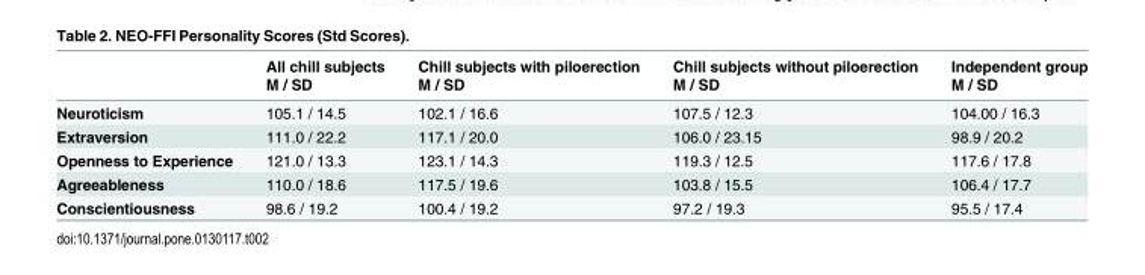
<table><thead><tr><td></td><td>All chill subjects M / SD</td><td>Chill subjects with piloerection M / SD</td><td>Chill subjects without piloerection M / SD</td><td>Independent group M / SD</td></tr></thead><tbody><tr><td>Neuroticism</td><td>105.1 / 14.5</td><td>102.1 / 16.6</td><td>107.5 / 12.3</td><td>104.00 / 16.3</td></tr><tr><td>Extraversion</td><td>111.0 / 22.2</td><td>117.1 / 20.0</td><td>106.0 / 23.15</td><td>98.9 / 20.2</td></tr><tr><td>Openness to Experience</td><td>121.0 / 13.3</td><td>123.1 / 14.3</td><td>119.3 / 12.5</td><td>117.6 / 17.8</td></tr><tr><td>Agreeableness</td><td>110.0 / 18.6</td><td>117.5 / 19.6</td><td>103.8 / 15.5</td><td>106.4 / 17.7</td></tr><tr><td>Conscientiousness</td><td>98.6 / 19.2</td><td>100.4 / 19.2</td><td>97.2 / 19.3</td><td>95.5 / 17.4</td></tr></tbody></table>